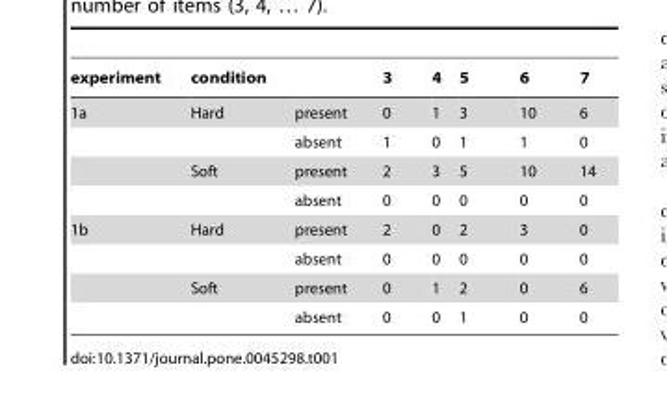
<table><thead><tr><td>experiment</td><td>condition</td><td></td><td>3</td><td>4</td><td>5</td><td>6</td><td>7</td></tr></thead><tbody><tr><td rowspan="4">1a</td><td>Hard</td><td>present</td><td>0</td><td>1</td><td>3</td><td>10</td><td>6</td></tr><tr><td></td><td>absent</td><td>1</td><td>0</td><td>1</td><td>1</td><td>0</td></tr><tr><td>Soft</td><td>present</td><td>2</td><td>3</td><td>5</td><td>10</td><td>14</td></tr><tr><td></td><td>absent</td><td>0</td><td>0</td><td>0</td><td>0</td><td>0</td></tr><tr><td rowspan="4">1b</td><td>Hard</td><td>present</td><td>2</td><td>0</td><td>2</td><td>3</td><td>0</td></tr><tr><td></td><td>absent</td><td>0</td><td>0</td><td>0</td><td>0</td><td>0</td></tr><tr><td>Soft</td><td>present</td><td>0</td><td>1</td><td>2</td><td>0</td><td>6</td></tr><tr><td></td><td>absent</td><td>0</td><td>0</td><td>1</td><td>0</td><td>0</td></tr></tbody></table>